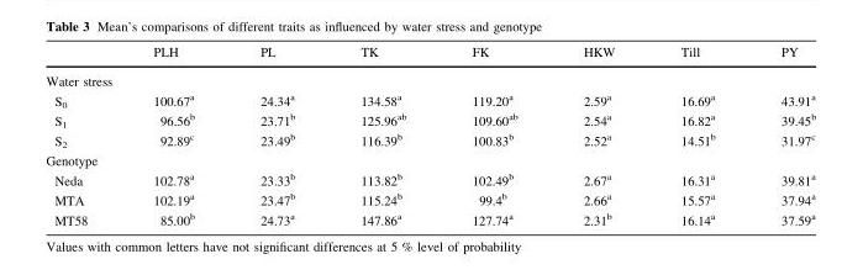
<table><thead><tr><td></td><td>PLH</td><td>PL</td><td>TK</td><td>FK</td><td>HKW</td><td>Till</td><td>PY</td></tr></thead><tbody><tr><td colspan="8">Water stress</td></tr><tr><td>S<sub>0</sub></td><td>100.67<sup>a</sup></td><td>24.34<sup>a</sup></td><td>134.58<sup>a</sup></td><td>119.20<sup>a</sup></td><td>2.59<sup>a</sup></td><td>16.69<sup>a</sup></td><td>43.91<sup>a</sup></td></tr><tr><td>S<sub>1</sub></td><td>96.56<sup>b</sup></td><td>23.71<sup>b</sup></td><td>125.96<sup>ab</sup></td><td>109.60<sup>ab</sup></td><td>2.54<sup>a</sup></td><td>16.82<sup>a</sup></td><td>39.45<sup>b</sup></td></tr><tr><td>S<sub>2</sub></td><td>92.89<sup>c</sup></td><td>23.49<sup>b</sup></td><td>116.39<sup>b</sup></td><td>100.83<sup>b</sup></td><td>2.52<sup>a</sup></td><td>14.51<sup>b</sup></td><td>31.97<sup>c</sup></td></tr><tr><td colspan="8">Genotype</td></tr><tr><td>Neda</td><td>102.78<sup>a</sup></td><td>23.33<sup>b</sup></td><td>113.82<sup>b</sup></td><td>102.49<sup>b</sup></td><td>2.67<sup>a</sup></td><td>16.31<sup>a</sup></td><td>39.81<sup>a</sup></td></tr><tr><td>MTA</td><td>102.19<sup>a</sup></td><td>23.47<sup>b</sup></td><td>115.24<sup>b</sup></td><td>99.4<sup>b</sup></td><td>2.66<sup>a</sup></td><td>15.57<sup>a</sup></td><td>37.94<sup>a</sup></td></tr><tr><td>MT58</td><td>85.00<sup>b</sup></td><td>24.73<sup>a</sup></td><td>147.86<sup>a</sup></td><td>127.74<sup>a</sup></td><td>2.31<sup>b</sup></td><td>16.14<sup>a</sup></td><td>37.59<sup>a</sup></td></tr></tbody></table>